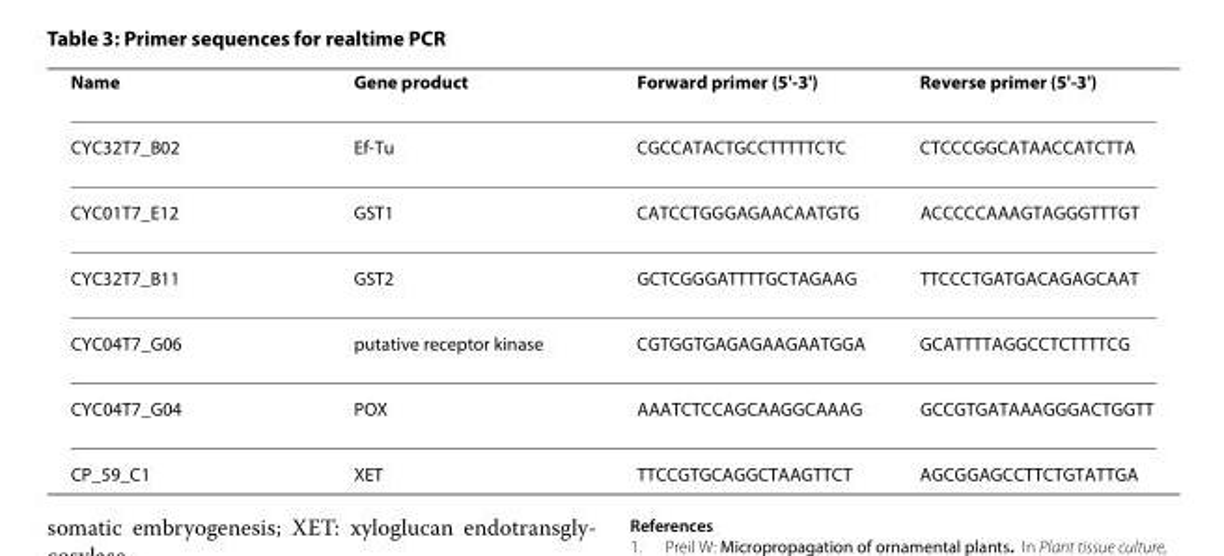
<table><thead><tr><td>Name</td><td>Gene product</td><td>Forward primer (5&#x27;-3&#x27;)</td><td>Reverse primer (5&#x27;-3&#x27;)</td></tr></thead><tbody><tr><td>CYC32T7_B02</td><td>Ef-Tu</td><td>CGCCATACTGCCTTTTTCTC</td><td>CTCCCGGCATAACCATCTTA</td></tr><tr><td>CYC01T7_E12</td><td>GST1</td><td>CATCCTGGGAGAACAATGTG</td><td>ACCCCCAAAGTAGGGTTTGT</td></tr><tr><td>CYC32T7_B11</td><td>GST2</td><td>GCTCGGGATTTTGCTAGAAG</td><td>TTCCCTGATGACAGAGCAAT</td></tr><tr><td>CYC04T7_G06</td><td>putative receptor kinase</td><td>CGTGGTGAGAGAAGAATGGA</td><td>GCATTTTAGGCCTCTTTTCG</td></tr><tr><td>CYC04T7_G04</td><td>POX</td><td>AAATCTCCAGCAAGGCAAAG</td><td>GCCGTGATAAAGGGACTGGTT</td></tr><tr><td>CP_59_C1</td><td>XET</td><td>TTCCGTGCAGGCTAAGTTCT</td><td>AGCGGAGCCTTCTGTATTGA</td></tr></tbody></table>